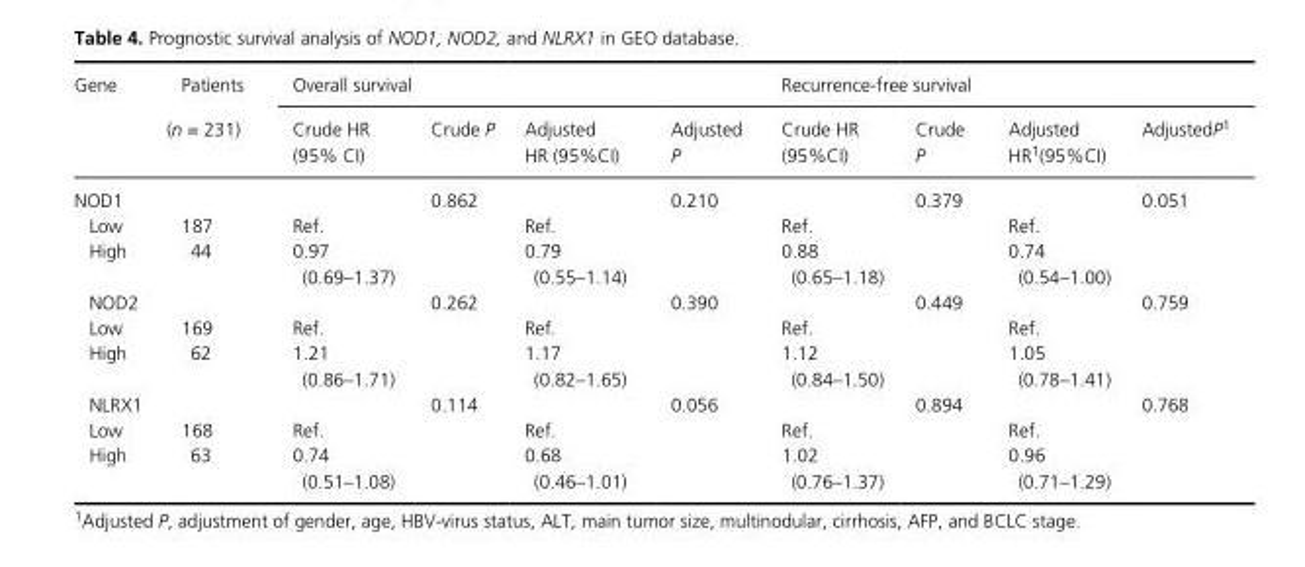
<table><thead><tr><td rowspan="2">Gene</td><td rowspan="2">Patients (n = 231)</td><td colspan="4">Overall survival</td><td colspan="4">Recurrence- free survival</td></tr><tr><td>Crude HR (95% CI)</td><td>Crude P</td><td>Adjusted HR (95%CI)</td><td>Adjusted P</td><td>Crude HR (95%CI)</td><td>Crude P</td><td>Adjusted HR1(95%CI)</td><td>AdjustedP1</td></tr></thead><tbody><tr><td>NOD1</td><td></td><td></td><td>0.862</td><td></td><td>0.210</td><td></td><td>0.379</td><td></td><td>0.051</td></tr><tr><td>Low</td><td>187</td><td>Ref.</td><td></td><td>Ref.</td><td></td><td>Ref.</td><td></td><td>Ref.</td><td></td></tr><tr><td>High</td><td>44</td><td>0.97 (0.69–1.37)</td><td></td><td>0.79 (0.55–1.14)</td><td></td><td>0.88 (0.65–1.18)</td><td></td><td>0.74 (0.54–1.00)</td><td></td></tr><tr><td>NOD2</td><td></td><td></td><td>0.262</td><td></td><td>0.390</td><td></td><td>0.449</td><td></td><td>0.759</td></tr><tr><td>Low</td><td>169</td><td>Ref.</td><td></td><td>Ref.</td><td></td><td>Ref.</td><td></td><td>Ref.</td><td></td></tr><tr><td>High</td><td>62</td><td>1.21 (0.86–1.71)</td><td></td><td>1.17 (0.82–1.65)</td><td></td><td>1.12 (0.84–1.50)</td><td></td><td>1.05 (0.78–1.41)</td><td></td></tr><tr><td>NLRX1</td><td></td><td></td><td>0.114</td><td></td><td>0.056</td><td></td><td>0.894</td><td></td><td>0.768</td></tr><tr><td>Low</td><td>168</td><td>Ref.</td><td></td><td>Ref.</td><td></td><td>Ref.</td><td></td><td>Ref.</td><td></td></tr><tr><td>High</td><td>63</td><td>0.74 (0.51–1.08)</td><td></td><td>0.68 (0.46–1.01)</td><td></td><td>1.02 (0.76–1.37)</td><td></td><td>0.96 (0.71–1.29)</td><td></td></tr></tbody></table>